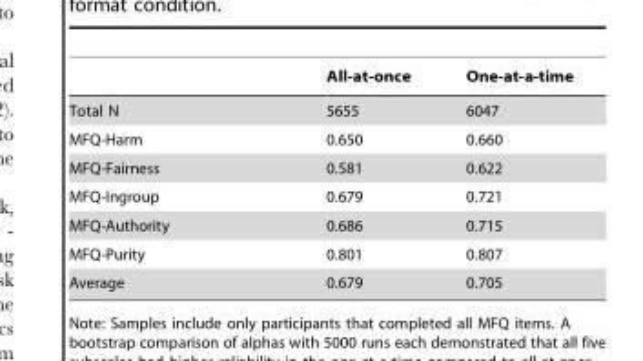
<table><thead><tr><td></td><td>All-at-once</td><td>One-at-a-time</td></tr></thead><tbody><tr><td>Total N</td><td>5655</td><td>6047</td></tr><tr><td>MFQ-Harm</td><td>0.650</td><td>0.660</td></tr><tr><td>MFQ-Fairness</td><td>0.581</td><td>0.622</td></tr><tr><td>MFQ-Ingroup</td><td>0.679</td><td>0.721</td></tr><tr><td>MFQ-Authority</td><td>0.686</td><td>0.715</td></tr><tr><td>MFQ-Purity</td><td>0.801</td><td>0.807</td></tr><tr><td>Average</td><td>0.679</td><td>0.705</td></tr></tbody></table>